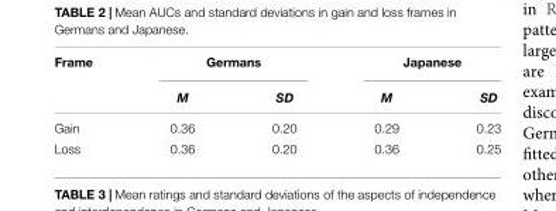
<table><thead><tr><td rowspan="2">Frame</td><td colspan="2">Germans</td><td colspan="2">Japanese</td></tr><tr><td>M</td><td>SD</td><td>M</td><td>SD</td></tr></thead><tbody><tr><td>Gain</td><td>0.36</td><td>0.20</td><td>0.29</td><td>0.23</td></tr><tr><td>Loss</td><td>0.36</td><td>0.20</td><td>0.36</td><td>0.25</td></tr></tbody></table>